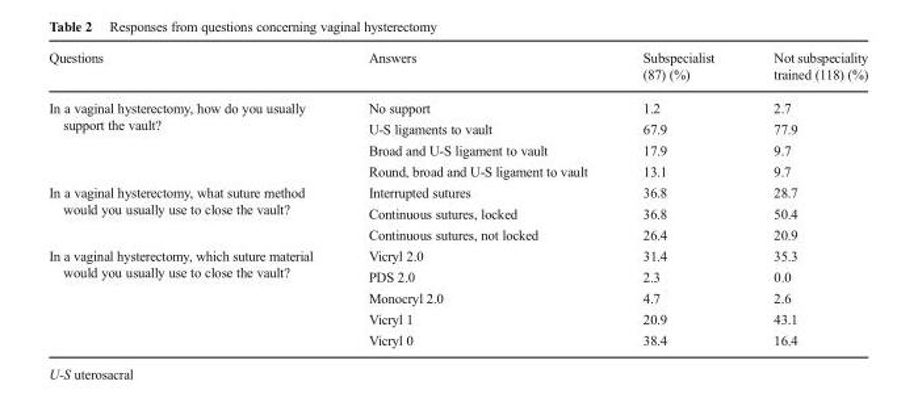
<table><thead><tr><td>Questions</td><td>Answers</td><td>Subspecialist (87) (%)</td><td>Not subspeciality trained (118) (%)</td></tr></thead><tbody><tr><td rowspan="4">In a vaginal hysterectomy, how do you usually support the vault?</td><td>No support</td><td>1.2</td><td>2.7</td></tr><tr><td>U-S ligaments to vault</td><td>67.9</td><td>77.9</td></tr><tr><td>Broad and U-S ligament to vault</td><td>17.9</td><td>9.7</td></tr><tr><td>Round, broad and U-S ligament to vault</td><td>13.1</td><td>9.7</td></tr><tr><td rowspan="3">In a vaginal hysterectomy, what suture method would you usually use to close the vault?</td><td>Interrupted sutures</td><td>36.8</td><td>28.7</td></tr><tr><td>Continuous sutures, locked</td><td>36.8</td><td>50.4</td></tr><tr><td>Continuous sutures, not locked</td><td>26.4</td><td>20.9</td></tr><tr><td rowspan="5">In a vaginal hysterectomy, which suture material would you usually use to close the vault?</td><td>Vicryl 2.0</td><td>31.4</td><td>35.3</td></tr><tr><td>PDS 2.0</td><td>2.3</td><td>0.0</td></tr><tr><td>Monocryl 2.0</td><td>4.7</td><td>2.6</td></tr><tr><td>Vicryl 1</td><td>20.9</td><td>43.1</td></tr><tr><td>Vicryl 0</td><td>38.4</td><td>16.4</td></tr></tbody></table>